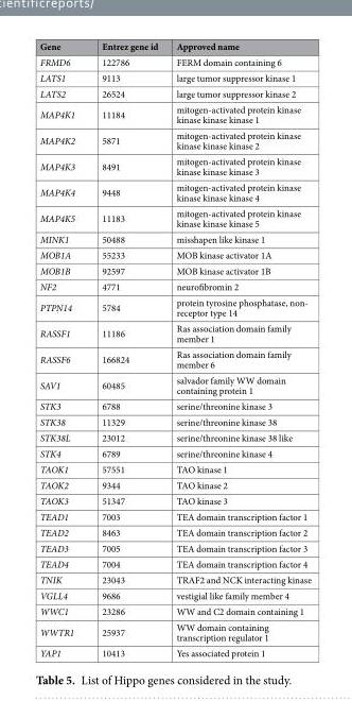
<table><thead><tr><td>Gene</td><td>Entrez gene id</td><td>Approved name</td></tr></thead><tbody><tr><td>FRMD6</td><td>122786</td><td>FERM domain containing 6</td></tr><tr><td>LATS1</td><td>9113</td><td>large tumor suppressor kinase 1</td></tr><tr><td>LATS2</td><td>26524</td><td>large tumor suppressor kinase 2</td></tr><tr><td>MAP4K1</td><td>11184</td><td>mitogen-activated protein kinase kinase kinase kinase 1</td></tr><tr><td>MAP4K2</td><td>5871</td><td>mitogen-activated protein kinase kinase kinase kinase 2</td></tr><tr><td>MAP4K3</td><td>8491</td><td>mitogen-activated protein kinase kinase kinase kinase 3</td></tr><tr><td>MAP4K4</td><td>9448</td><td>mitogen-activated protein kinase kinase kinase kinase 4</td></tr><tr><td>MAP4K5</td><td>11183</td><td>mitogen-activated protein kinase kinase kinase kinase 5</td></tr><tr><td>MINK1</td><td>50488</td><td>misshapen like kinase 1</td></tr><tr><td>MOB1A</td><td>55233</td><td>MOB kinase activator 1A</td></tr><tr><td>MOB1B</td><td>92597</td><td>MOB kinase activator 1B</td></tr><tr><td>NF2</td><td>4771</td><td>neurofibromin 2</td></tr><tr><td>PTPN14</td><td>5784</td><td>protein tyrosine phosphatase, non- receptor type 14</td></tr><tr><td>RASSF1</td><td>11186</td><td>Ras association domain family member 1</td></tr><tr><td>RASSF6</td><td>166824</td><td>Ras association domain family member 6</td></tr><tr><td>SAV1</td><td>60485</td><td>salvador family WW domain containing protein 1</td></tr><tr><td>STK3</td><td>6788</td><td>serine/threonine kinase 3</td></tr><tr><td>STK38</td><td>11329</td><td>serine/threonine kinase 38</td></tr><tr><td>STK38L</td><td>23012</td><td>serine/threonine kinase 38 like</td></tr><tr><td>STK4</td><td>6789</td><td>serine/threonine kinase 4</td></tr><tr><td>TAOK1</td><td>57551</td><td>TAO kinase 1</td></tr><tr><td>TAOK2</td><td>9344</td><td>TAO kinase 2</td></tr><tr><td>TAOK3</td><td>51347</td><td>TAO kinase 3</td></tr><tr><td>TEAD1</td><td>7003</td><td>TEA domain transcription factor 1</td></tr><tr><td>TEAD2</td><td>8463</td><td>TEA domain transcription factor 2</td></tr><tr><td>TEAD3</td><td>7005</td><td>TEA domain transcription factor 3</td></tr><tr><td>TEAD4</td><td>7004</td><td>TEA domain transcription factor 4</td></tr><tr><td>TNIK</td><td>23043</td><td>TRAF2 and NCK interacting kinase</td></tr><tr><td>VGLL4</td><td>9686</td><td>vestigial like family member 4</td></tr><tr><td>WWC1</td><td>23286</td><td>WW and C2 domain containing 1</td></tr><tr><td>WWTR1</td><td>25937</td><td>WW domain containing transcription regulator 1</td></tr><tr><td>YAP1</td><td>10413</td><td>Yes associated protein 1</td></tr></tbody></table>